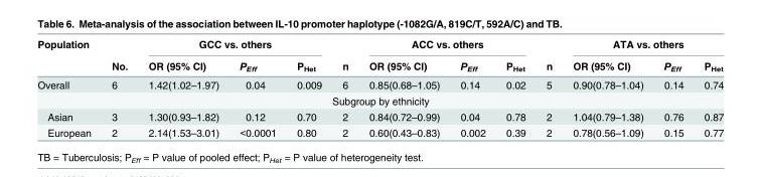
<table><thead><tr><td rowspan="2">Population</td><td rowspan="2">No.</td><td colspan="3">GCC vs. others</td><td rowspan="2">n</td><td colspan="3">ACC vs. others</td><td rowspan="2">n</td><td colspan="3">ATA vs. others</td></tr><tr><td>OR (95% CI)</td><td>P<sub>Eff</sub></td><td>P<sub>Het</sub></td><td>OR (95% CI)</td><td>P<sub>Eff</sub></td><td>P<sub>Het</sub></td><td>OR (95% CI)</td><td>P<sub>Eff</sub></td><td>P<sub>Het</sub></td></tr></thead><tbody><tr><td>Overall</td><td>6</td><td>1.42(1.02–1.97)</td><td>0.04</td><td>0.009</td><td>6</td><td>0.85(0.68–1.05)</td><td>0.14</td><td>0.02</td><td>5</td><td>0.90(0.78–1.04)</td><td>0.14</td><td>0.74</td></tr><tr><td colspan="13">Subgroup by ethnicity</td></tr><tr><td>Asian</td><td>3</td><td>1.30(0.93–1.82)</td><td>0.12</td><td>0.70</td><td>2</td><td>0.84(0.72–0.99)</td><td>0.04</td><td>0.78</td><td>2</td><td>1.04(0.79–1.38)</td><td>0.76</td><td>0.87</td></tr><tr><td>European</td><td>2</td><td>2.14(1.53–3.01)</td><td>&lt;0.0001</td><td>0.80</td><td>2</td><td>0.60(0.43–0.83)</td><td>0.002</td><td>0.39</td><td>2</td><td>0.78(0.56–1.09)</td><td>0.15</td><td>0.77</td></tr></tbody></table>